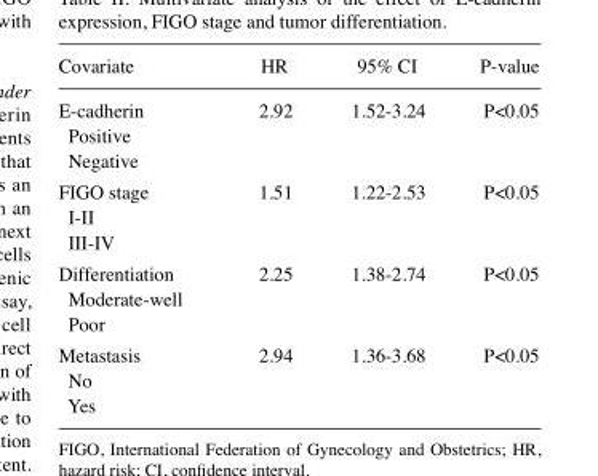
<table><thead><tr><td>Covariate</td><td>HR</td><td>95% CI</td><td>P-value</td></tr></thead><tbody><tr><td>E-cadherin</td><td>2.92</td><td>1.52-3.24</td><td>P&lt;0.05</td></tr><tr><td colspan="4">Positive</td></tr><tr><td colspan="4">Negative</td></tr><tr><td>FIGO stage</td><td>1.51</td><td>1.22-2.53</td><td>P&lt;0.05</td></tr><tr><td colspan="4">I-II</td></tr><tr><td colspan="4">III-IV</td></tr><tr><td>Differentiation</td><td>2.25</td><td>1.38-2.74</td><td>P&lt;0.05</td></tr><tr><td colspan="4">Moderate-well</td></tr><tr><td colspan="4">Poor</td></tr><tr><td>Metastasis</td><td>2.94</td><td>1.36-3.68</td><td>P&lt;0.05</td></tr><tr><td colspan="4">No</td></tr><tr><td>Yes</td><td></td><td></td><td></td></tr></tbody></table>